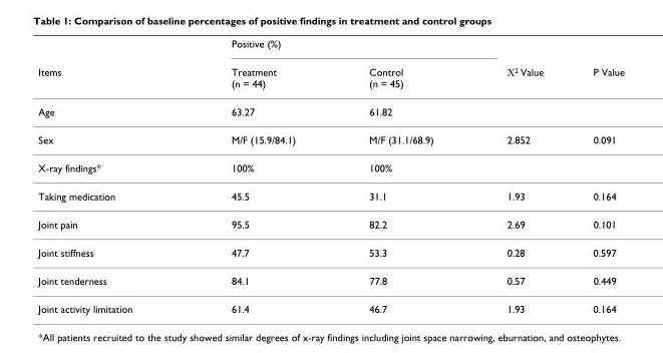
<table><thead><tr><td rowspan="2">Items</td><td colspan="2">Positive (%)</td><td rowspan="2">Χ<sup>2</sup> Value</td><td rowspan="2">P Value</td></tr><tr><td>Treatment (n = 44)</td><td>Control (n = 45)</td></tr></thead><tbody><tr><td>Age</td><td>63.27</td><td>61.82</td><td></td><td></td></tr><tr><td>Sex</td><td>M/F (15.9/84.1)</td><td>M/F (31.1/68.9)</td><td>2.852</td><td>0.091</td></tr><tr><td>X-ray findings*</td><td>100%</td><td>100%</td><td></td><td></td></tr><tr><td>Taking medication</td><td>45.5</td><td>31.1</td><td>1.93</td><td>0.164</td></tr><tr><td>Joint pain</td><td>95.5</td><td>82.2</td><td>2.69</td><td>0.101</td></tr><tr><td>Joint stiffness</td><td>47.7</td><td>53.3</td><td>0.28</td><td>0.597</td></tr><tr><td>Joint tenderness</td><td>84.1</td><td>77.8</td><td>0.57</td><td>0.449</td></tr><tr><td>Joint activity limitation</td><td>61.4</td><td>46.7</td><td>1.93</td><td>0.164</td></tr></tbody></table>